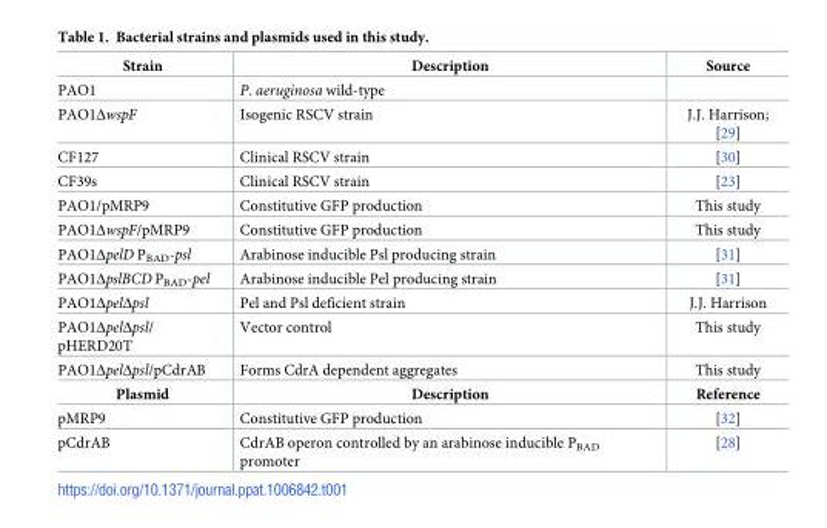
<table><tbody><tr><td>Strain</td><td>Description</td><td>Source</td></tr><tr><td>PAO1</td><td>P. aeruginosa wild-type</td><td></td></tr><tr><td>PAO1ΔwspF</td><td>Isogenic RSCV strain</td><td>J.J. Harrison; [29]</td></tr><tr><td>CF127</td><td>Clinical RSCV strain</td><td>[30]</td></tr><tr><td>CF39s</td><td>Clinical RSCV strain</td><td>[23]</td></tr><tr><td>PAO1/pMRP9</td><td>Constitutive GFP production</td><td>This study</td></tr><tr><td>PAO1ΔwspF/pMRP9</td><td>Constitutive GFP production</td><td>This study</td></tr><tr><td>PAO1ΔpelD P<sub>BAD</sub>-psl</td><td>Arabinose inducible Psl producing strain</td><td>[31]</td></tr><tr><td>PAO1ΔpslBCD P<sub>BAD</sub>-pel</td><td>Arabinose inducible Pel producing strain</td><td>[31]</td></tr><tr><td>PAO1ΔpelΔpsl</td><td>Pel and Psl deficient strain</td><td>J.J. Harrison</td></tr><tr><td>PAO1ΔpelΔpsl/ pHERD20T</td><td>Vector control</td><td>This study</td></tr><tr><td>PAO1ΔpelΔpsl/pCdrAB</td><td>Forms CdrA dependent aggregates</td><td>This study</td></tr><tr><td>Plasmid</td><td>Description</td><td>Reference</td></tr><tr><td>pMRP9</td><td>Constitutive GFP production</td><td>[32]</td></tr><tr><td>pCdrAB</td><td>CdrAB operon controlled by an arabinose inducible P<sub>BAD</sub> promoter</td><td>[28]</td></tr></tbody></table>